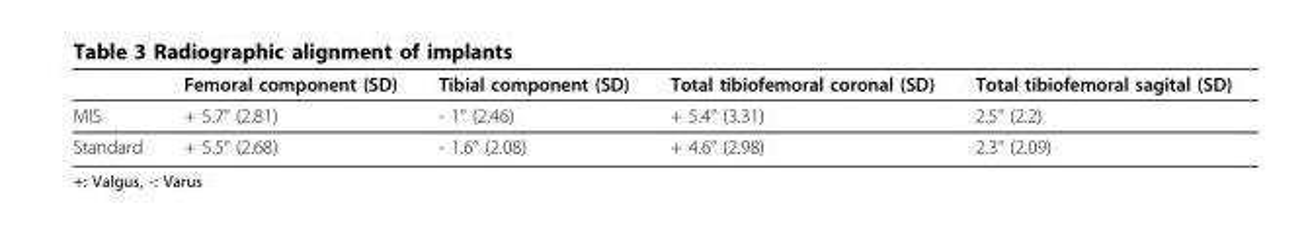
<table><thead><tr><td></td><td>Femoral component (SD)</td><td>Tibial component (SD)</td><td>Total tibiofemoral coronal (SD)</td><td>Total tibiofemoral sagital (SD)</td></tr></thead><tbody><tr><td>MIS</td><td>+ 5.7° (2.81)</td><td>- 1° (2.46)</td><td>+ 5.4° (3.31)</td><td>2.5° (2.2)</td></tr><tr><td>Standard</td><td>+ 5.5° (2.68)</td><td>- 1.6° (2.08)</td><td>+ 4.6° (2.98)</td><td>2.3° (2.09)</td></tr></tbody></table>